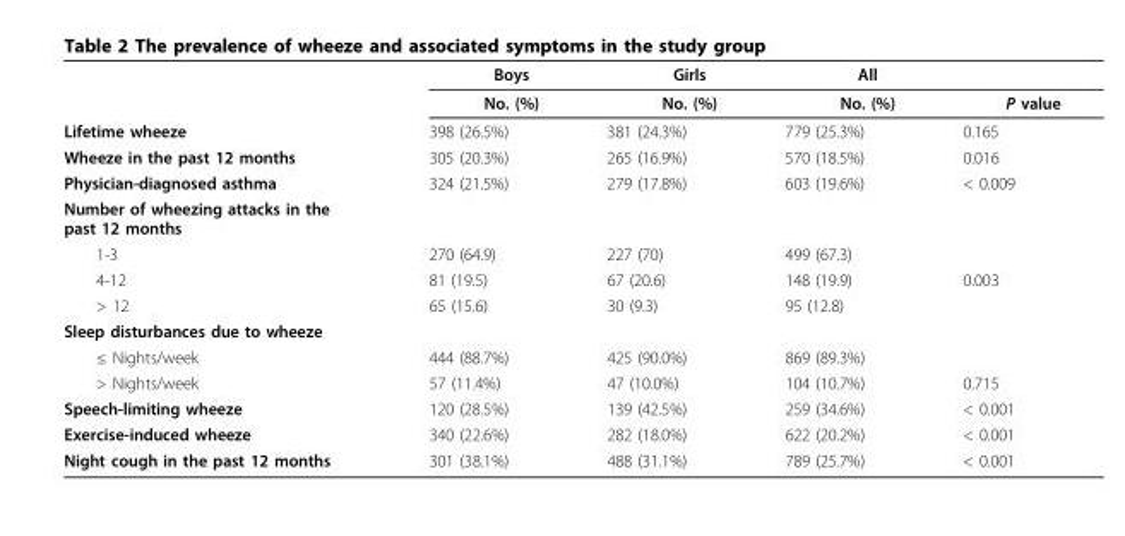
<table><thead><tr><td></td><td>Boys</td><td>Girls</td><td>All</td><td></td></tr></thead><tbody><tr><td></td><td>No. (%)</td><td>No. (%)</td><td>No. (%)</td><td>P value</td></tr><tr><td>Lifetime wheeze</td><td>398 (26.5%)</td><td>381 (24.3%)</td><td>779 (25.3%)</td><td>0.165</td></tr><tr><td>Wheeze in the past 12 months</td><td>305 (20.3%)</td><td>265 (16.9%)</td><td>570 (18.5%)</td><td>0.016</td></tr><tr><td>Physician-diagnosed asthma</td><td>324 (21.5%)</td><td>279 (17.8%)</td><td>603 (19.6%)</td><td>&lt; 0.009</td></tr><tr><td colspan="5">Number of wheezing attacks in the past 12 months</td></tr><tr><td>1-3</td><td>270 (64.9)</td><td>227 (70)</td><td>499 (67.3)</td><td></td></tr><tr><td>4-12</td><td>81 (19.5)</td><td>67 (20.6)</td><td>148 (19.9)</td><td>0.003</td></tr><tr><td>&gt; 12</td><td>65 (15.6)</td><td>30 (9.3)</td><td>95 (12.8)</td><td></td></tr><tr><td colspan="5">Sleep disturbances due to wheeze</td></tr><tr><td>≤ Nights/week</td><td>444 (88.7%)</td><td>425 (90.0%)</td><td>869 (89.3%)</td><td></td></tr><tr><td>&gt; Nights/week</td><td>57 (11.4%)</td><td>47 (10.0%)</td><td>104 (10.7%)</td><td>0.715</td></tr><tr><td>Speech-limiting wheeze</td><td>120 (28.5%)</td><td>139 (42.5%)</td><td>259 (34.6%)</td><td>&lt; 0.001</td></tr><tr><td>Exercise-induced wheeze</td><td>340 (22.6%)</td><td>282 (18.0%)</td><td>622 (20.2%)</td><td>&lt; 0.001</td></tr><tr><td>Night cough in the past 12 months</td><td>301 (38.1%)</td><td>488 (31.1%)</td><td>789 (25.7%)</td><td>&lt; 0.001</td></tr></tbody></table>